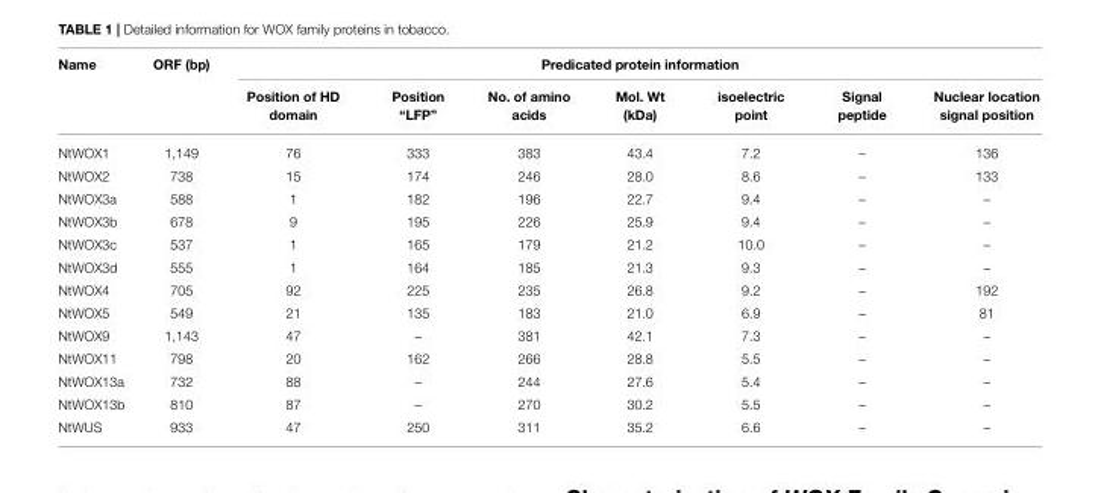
<table><thead><tr><td rowspan="2">Name</td><td rowspan="2">ORF (bp)</td><td colspan="7">Predicated protein information</td></tr><tr><td>Position of HD domain</td><td>Position “LFP”</td><td>No. of amino acids</td><td>Mol. Wt (kDa)</td><td>isoelectric point</td><td>Signal peptide</td><td>Nuclear location signal position</td></tr></thead><tbody><tr><td>NtWOX1</td><td>1,149</td><td>76</td><td>333</td><td>383</td><td>43.4</td><td>7.2</td><td>–</td><td>136</td></tr><tr><td>NtWOX2</td><td>738</td><td>15</td><td>174</td><td>246</td><td>28.0</td><td>8.6</td><td>–</td><td>133</td></tr><tr><td>NtWOX3a</td><td>588</td><td>1</td><td>182</td><td>196</td><td>22.7</td><td>9.4</td><td>–</td><td>–</td></tr><tr><td>NtWOX3b</td><td>678</td><td>9</td><td>195</td><td>226</td><td>25.9</td><td>9.4</td><td>–</td><td>–</td></tr><tr><td>NtWOX3c</td><td>537</td><td>1</td><td>165</td><td>179</td><td>21.2</td><td>10.0</td><td>–</td><td>–</td></tr><tr><td>NtWOX3d</td><td>555</td><td>1</td><td>164</td><td>185</td><td>21.3</td><td>9.3</td><td>–</td><td>–</td></tr><tr><td>NtWOX4</td><td>705</td><td>92</td><td>225</td><td>235</td><td>26.8</td><td>9.2</td><td>–</td><td>192</td></tr><tr><td>NtWOX5</td><td>549</td><td>21</td><td>135</td><td>183</td><td>21.0</td><td>6.9</td><td>–</td><td>81</td></tr><tr><td>NtWOX9</td><td>1,143</td><td>47</td><td>–</td><td>381</td><td>42.1</td><td>7.3</td><td>–</td><td>–</td></tr><tr><td>NtWOX11</td><td>798</td><td>20</td><td>162</td><td>266</td><td>28.8</td><td>5.5</td><td>–</td><td>–</td></tr><tr><td>NtWOX13a</td><td>732</td><td>88</td><td>–</td><td>244</td><td>27.6</td><td>5.4</td><td>–</td><td>–</td></tr><tr><td>NtWOX13b</td><td>810</td><td>87</td><td>–</td><td>270</td><td>30.2</td><td>5.5</td><td>–</td><td>–</td></tr><tr><td>NtWUS</td><td>933</td><td>47</td><td>250</td><td>311</td><td>35.2</td><td>6.6</td><td>–</td><td>–</td></tr></tbody></table>